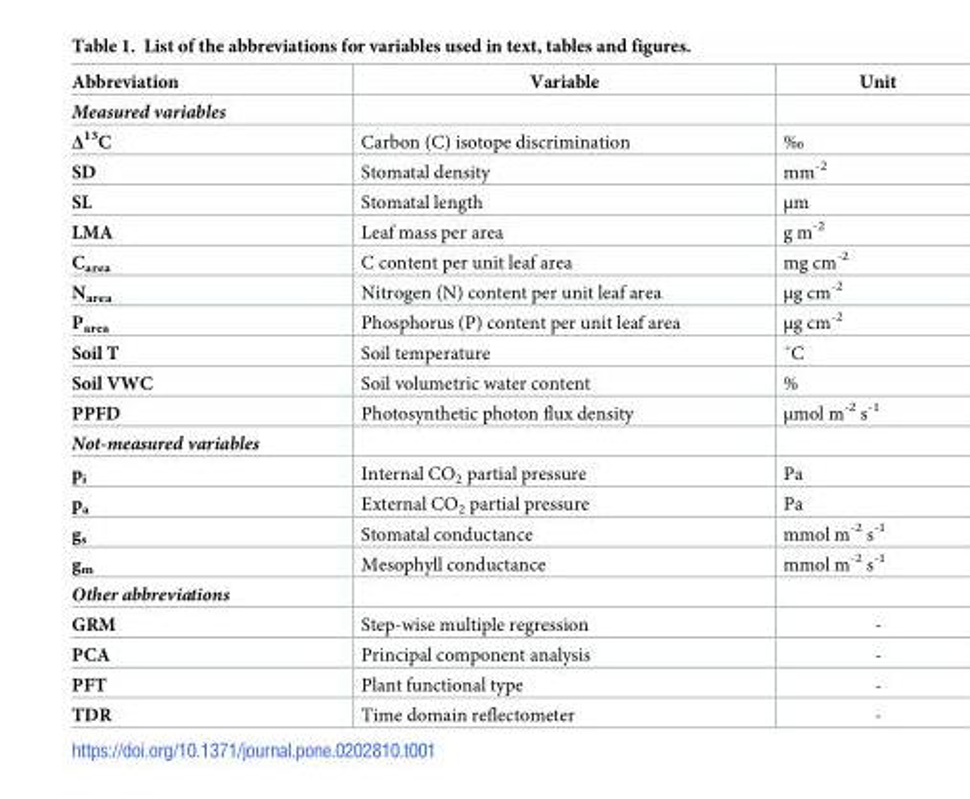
<table><thead><tr><td>Abbreviation</td><td>Variable</td><td>Unit</td></tr></thead><tbody><tr><td colspan="3">Measured variables</td></tr><tr><td>Δ<sup>13</sup>C</td><td>Carbon (C) isotope discrimination</td><td>‰</td></tr><tr><td>SD</td><td>Stomatal density</td><td>mm<sup>-2</sup></td></tr><tr><td>SL</td><td>Stomatal length</td><td>μm</td></tr><tr><td>LMA</td><td>Leaf mass per area</td><td>g m<sup>-2</sup></td></tr><tr><td>C<sub>area</sub></td><td>C content per unit leaf area</td><td>mg cm<sup>-2</sup></td></tr><tr><td>N<sub>area</sub></td><td>Nitrogen (N) content per unit leaf area</td><td>μg cm<sup>-2</sup></td></tr><tr><td>P<sub>area</sub></td><td>Phosphorus (P) content per unit leaf area</td><td>μg cm<sup>-2</sup></td></tr><tr><td>Soil T</td><td>Soil temperature</td><td>˚C</td></tr><tr><td>Soil VWC</td><td>Soil volumetric water content</td><td>%</td></tr><tr><td>PPFD</td><td>Photosynthetic photon flux density</td><td>μmol m<sup>-2</sup> s<sup>-1</sup></td></tr><tr><td colspan="3">Not-measured variables</td></tr><tr><td>p<sub>i</sub></td><td>Internal CO<sub>2</sub> partial pressure</td><td>Pa</td></tr><tr><td>p<sub>a</sub></td><td>External CO<sub>2</sub> partial pressure</td><td>Pa</td></tr><tr><td>g<sub>s</sub></td><td>Stomatal conductance</td><td>mmol m<sup>-2</sup> s<sup>-1</sup></td></tr><tr><td>g<sub>m</sub></td><td>Mesophyll conductance</td><td>mmol m<sup>-2</sup> s<sup>-1</sup></td></tr><tr><td colspan="3">Other abbreviations</td></tr><tr><td>GRM</td><td>Step-wise multiple regression</td><td>-</td></tr><tr><td>PCA</td><td>Principal component analysis</td><td>-</td></tr><tr><td>PFT</td><td>Plant functional type</td><td>-</td></tr><tr><td>TDR</td><td>Time domain reflectometer</td><td>-</td></tr></tbody></table>